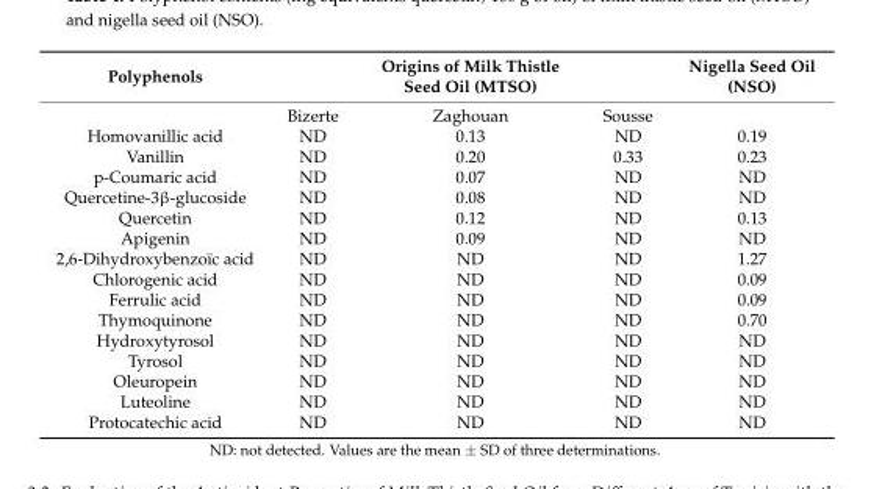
<table><thead><tr><td>Polyphenols</td><td></td><td>Origins of Milk Thistle Seed Oil (MTSO)</td><td></td><td>Nigella Seed Oil (NSO)</td></tr></thead><tbody><tr><td></td><td>Bizerte</td><td>Zaghouan</td><td>Sousse</td><td></td></tr><tr><td>Homovanillic acid</td><td>ND</td><td>0.13</td><td>ND</td><td>0.19</td></tr><tr><td>Vanillin</td><td>ND</td><td>0.20</td><td>0.33</td><td>0.23</td></tr><tr><td>p-Coumaric acid</td><td>ND</td><td>0.07</td><td>ND</td><td>ND</td></tr><tr><td>Quercetine-3β-glucoside</td><td>ND</td><td>0.08</td><td>ND</td><td>ND</td></tr><tr><td>Quercetin</td><td>ND</td><td>0.12</td><td>ND</td><td>0.13</td></tr><tr><td>Apigenin</td><td>ND</td><td>0.09</td><td>ND</td><td>ND</td></tr><tr><td>2,6-Dihydroxybenzoïc acid</td><td>ND</td><td>ND</td><td>ND</td><td>1.27</td></tr><tr><td>Chlorogenic acid</td><td>ND</td><td>ND</td><td>ND</td><td>0.09</td></tr><tr><td>Ferrulic acid</td><td>ND</td><td>ND</td><td>ND</td><td>0.09</td></tr><tr><td>Thymoquinone</td><td>ND</td><td>ND</td><td>ND</td><td>0.70</td></tr><tr><td>Hydroxytyrosol</td><td>ND</td><td>ND</td><td>ND</td><td>ND</td></tr><tr><td>Tyrosol</td><td>ND</td><td>ND</td><td>ND</td><td>ND</td></tr><tr><td>Oleuropein</td><td>ND</td><td>ND</td><td>ND</td><td>ND</td></tr><tr><td>Luteoline</td><td>ND</td><td>ND</td><td>ND</td><td>ND</td></tr><tr><td>Protocatechic acid</td><td>ND</td><td>ND</td><td>ND</td><td>ND</td></tr></tbody></table>